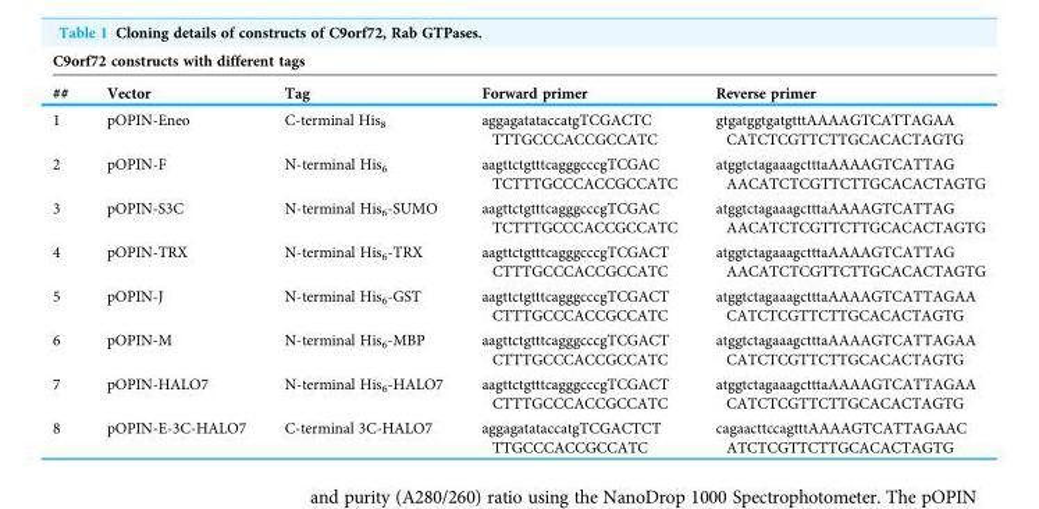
<table><thead><tr><td colspan="5">C9orf72 constructs with different tags</td></tr><tr><td>##</td><td>Vector</td><td>Tag</td><td>Forward primer</td><td>Reverse primer</td></tr></thead><tbody><tr><td>1</td><td>pOPIN-Eneo</td><td>C-terminal His<sub>8</sub></td><td>aggagatataccatgTCGACTC TTTGCCCACCGCCATC</td><td>gtgatggtgatgtttAAAAGTCATTAGAA CATCTCGTTCTTGCACACTAGTG</td></tr><tr><td>2</td><td>pOPIN-F</td><td>N-terminal His<sub>6</sub></td><td>aagttctgtttcagggcccgTCGAC TCTTTGCCCACCGCCATC</td><td>atggtctagaaagctttaAAAAGTCATTAG AACATCTCGTTCTTGCACACTAGTG</td></tr><tr><td>3</td><td>pOPIN-S3C</td><td>N-terminal His<sub>6</sub>-SUMO</td><td>aagttctgtttcagggcccgTCGAC TCTTTGCCCACCGCCATC</td><td>atggtctagaaagctttaAAAAGTCATTAG AACATCTCGTTCTTGCACACTAGTG</td></tr><tr><td>4</td><td>pOPIN-TRX</td><td>N-terminal His<sub>6</sub>-TRX</td><td>aagttctgtttcagggcccgTCGACT CTTTGCCCACCGCCATC</td><td>atggtctagaaagctttaAAAAGTCATTAG AACATCTCGTTCTTGCACACTAGTG</td></tr><tr><td>5</td><td>pOPIN-J</td><td>N-terminal His<sub>6</sub>-GST</td><td>aagttctgtttcagggcccgTCGACT CTTTGCCCACCGCCATC</td><td>atggtctagaaagctttaAAAAGTCATTAGAA CATCTCGTTCTTGCACACTAGTG</td></tr><tr><td>6</td><td>pOPIN-M</td><td>N-terminal His<sub>6</sub>-MBP</td><td>aagttctgtttcagggcccgTCGACT CTTTGCCCACCGCCATC</td><td>atggtctagaaagctttaAAAAGTCATTAGAA CATCTCGTTCTTGCACACTAGTG</td></tr><tr><td>7</td><td>pOPIN-HALO7</td><td>N-terminal His<sub>6</sub>-HALO7</td><td>aagttctgtttcagggcccgTCGACT CTTTGCCCACCGCCATC</td><td>atggtctagaaagctttaAAAAGTCATTAGAA CATCTCGTTCTTGCACACTAGTG</td></tr><tr><td>8</td><td>pOPIN-E-3C-HALO7</td><td>C-terminal 3C-HALO7</td><td>aggagatataccatgTCGACTCT TTGCCCACCGCCATC</td><td>cagaacttccagtttAAAAGTCATTAGAAC ATCTCGTTCTTGCACACTAGTG</td></tr></tbody></table>